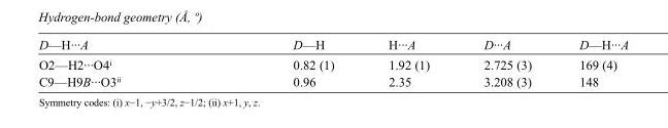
<table><tbody><tr><td>D—H···A</td><td>D—H</td><td>H···A</td><td>D···A</td><td>D—H···A</td></tr><tr><td>O2—H2···O4<sup>i</sup></td><td>0.82 (1)</td><td>1.92 (1)</td><td>2.725 (3)</td><td>169 (4)</td></tr><tr><td>C9—H9B···O3<sup>ii</sup></td><td>0.96</td><td>2.35</td><td>3.208 (3)</td><td>148</td></tr></tbody></table>